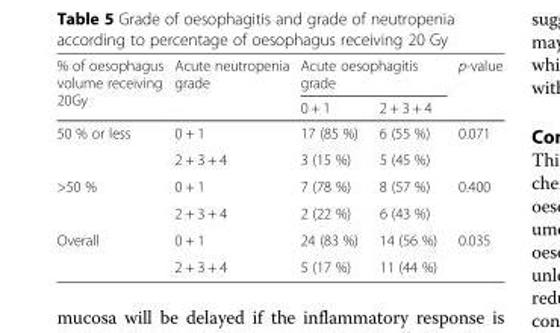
<table><thead><tr><td rowspan="2">% of oesophagus volume receiving 20Gy</td><td rowspan="2">Acute neutropenia grade</td><td colspan="2">Acute oesophagitis grade</td><td rowspan="2">p-value</td></tr><tr><td>0 + 1</td><td>2 + 3 + 4</td></tr></thead><tbody><tr><td rowspan="2">50 % or less</td><td>0 + 1</td><td>17 (85 %)</td><td>6 (55 %)</td><td>0.071</td></tr><tr><td>2 + 3 + 4</td><td>3 (15 %)</td><td>5 (45 %)</td><td></td></tr><tr><td rowspan="2">&gt;50 %</td><td>0 + 1</td><td>7 (78 %)</td><td>8 (57 %)</td><td>0.400</td></tr><tr><td>2 + 3 + 4</td><td>2 (22 %)</td><td>6 (43 %)</td><td></td></tr><tr><td rowspan="2">Overall</td><td>0 + 1</td><td>24 (83 %)</td><td>14 (56 %)</td><td>0.035</td></tr><tr><td>2 + 3 + 4</td><td>5 (17 %)</td><td>11 (44 %)</td><td></td></tr></tbody></table>